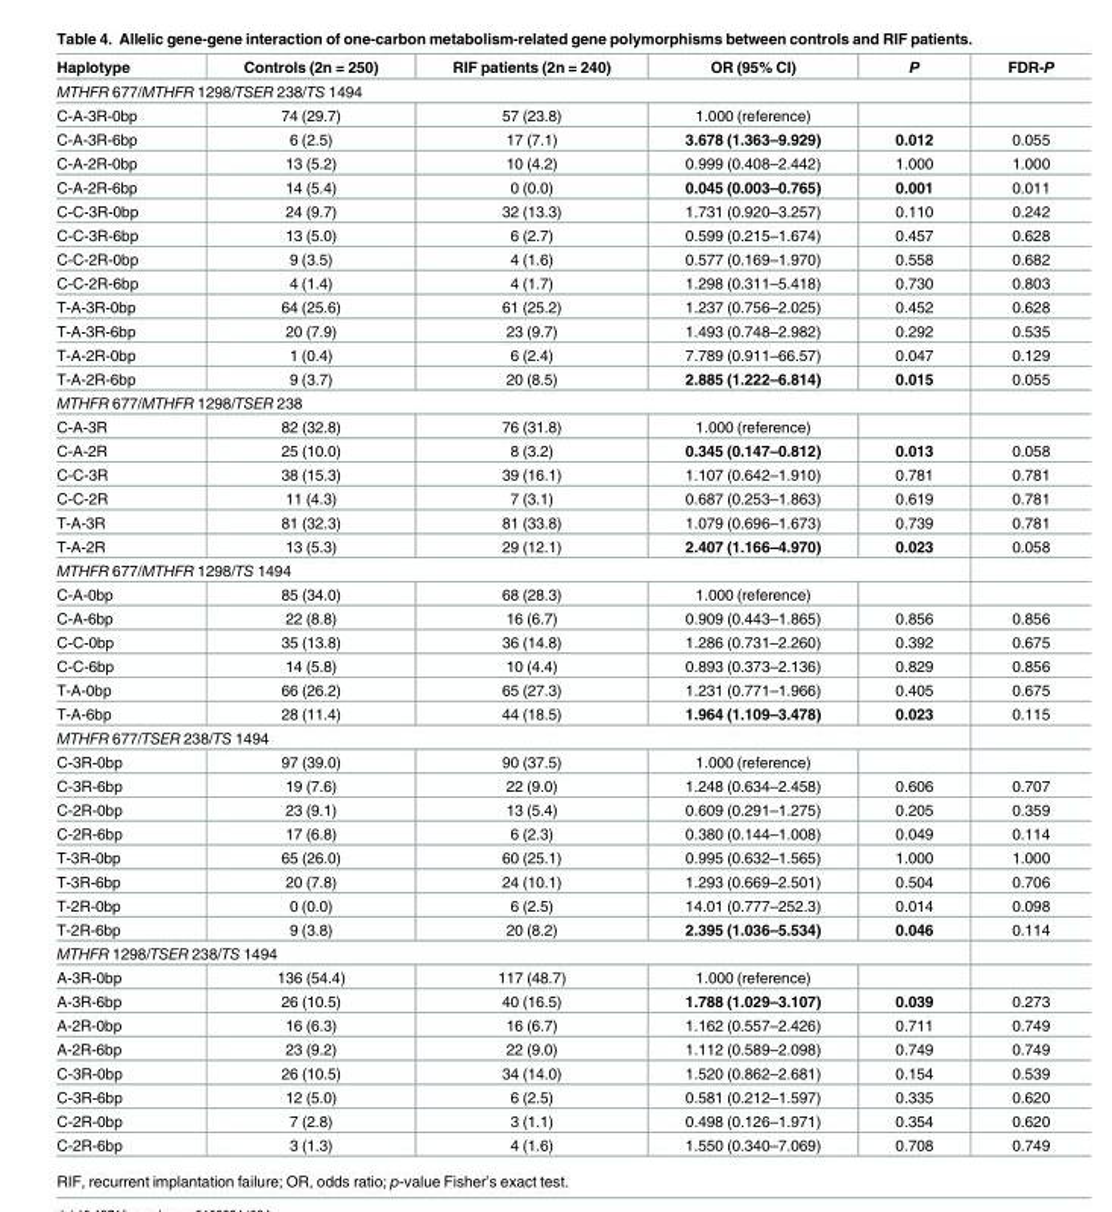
<table><thead><tr><td>Haplotype</td><td>Controls (2n = 250)</td><td>RIF patients (2n = 240)</td><td>OR (95% CI)</td><td>P</td><td>FDR-P</td></tr></thead><tbody><tr><td colspan="6">MTHFR 677/MTHFR 1298/TSER 238/TS 1494</td></tr><tr><td>C-A-3R-0bp</td><td>74 (29.7)</td><td>57 (23.8)</td><td>1.000 (reference)</td><td></td><td></td></tr><tr><td>C-A-3R-6bp</td><td>6 (2.5)</td><td>17 (7.1)</td><td>3.678 (1.363–9.929)</td><td>0.012</td><td>0.055</td></tr><tr><td>C-A-2R-0bp</td><td>13 (5.2)</td><td>10 (4.2)</td><td>0.999 (0.408–2.442)</td><td>1.000</td><td>1.000</td></tr><tr><td>C-A-2R-6bp</td><td>14 (5.4)</td><td>0 (0.0)</td><td>0.045 (0.003–0.765)</td><td>0.001</td><td>0.011</td></tr><tr><td>C-C-3R-0bp</td><td>24 (9.7)</td><td>32 (13.3)</td><td>1.731 (0.920–3.257)</td><td>0.110</td><td>0.242</td></tr><tr><td>C-C-3R-6bp</td><td>13 (5.0)</td><td>6 (2.7)</td><td>0.599 (0.215–1.674)</td><td>0.457</td><td>0.628</td></tr><tr><td>C-C-2R-0bp</td><td>9 (3.5)</td><td>4 (1.6)</td><td>0.577 (0.169–1.970)</td><td>0.558</td><td>0.682</td></tr><tr><td>C-C-2R-6bp</td><td>4 (1.4)</td><td>4 (1.7)</td><td>1.298 (0.311–5.418)</td><td>0.730</td><td>0.803</td></tr><tr><td>T-A-3R-0bp</td><td>64 (25.6)</td><td>61 (25.2)</td><td>1.237 (0.756–2.025)</td><td>0.452</td><td>0.628</td></tr><tr><td>T-A-3R-6bp</td><td>20 (7.9)</td><td>23 (9.7)</td><td>1.493 (0.748–2.982)</td><td>0.292</td><td>0.535</td></tr><tr><td>T-A-2R-0bp</td><td>1 (0.4)</td><td>6 (2.4)</td><td>7.789 (0.911–66.57)</td><td>0.047</td><td>0.129</td></tr><tr><td>T-A-2R-6bp</td><td>9 (3.7)</td><td>20 (8.5)</td><td>2.885 (1.222–6.814)</td><td>0.015</td><td>0.055</td></tr><tr><td colspan="6">MTHFR 677/MTHFR 1298/TSER 238</td></tr><tr><td>C-A-3R</td><td>82 (32.8)</td><td>76 (31.8)</td><td>1.000 (reference)</td><td></td><td></td></tr><tr><td>C-A-2R</td><td>25 (10.0)</td><td>8 (3.2)</td><td>0.345 (0.147–0.812)</td><td>0.013</td><td>0.058</td></tr><tr><td>C-C-3R</td><td>38 (15.3)</td><td>39 (16.1)</td><td>1.107 (0.642–1.910)</td><td>0.781</td><td>0.781</td></tr><tr><td>C-C-2R</td><td>11 (4.3)</td><td>7 (3.1)</td><td>0.687 (0.253–1.863)</td><td>0.619</td><td>0.781</td></tr><tr><td>T-A-3R</td><td>81 (32.3)</td><td>81 (33.8)</td><td>1.079 (0.696–1.673)</td><td>0.739</td><td>0.781</td></tr><tr><td>T-A-2R</td><td>13 (5.3)</td><td>29 (12.1)</td><td>2.407 (1.166–4.970)</td><td>0.023</td><td>0.058</td></tr><tr><td colspan="6">MTHFR 677/MTHFR 1298/TS 1494</td></tr><tr><td>C-A-0bp</td><td>85 (34.0)</td><td>68 (28.3)</td><td>1.000 (reference)</td><td></td><td></td></tr><tr><td>C-A-6bp</td><td>22 (8.8)</td><td>16 (6.7)</td><td>0.909 (0.443–1.865)</td><td>0.856</td><td>0.856</td></tr><tr><td>C-C-0bp</td><td>35 (13.8)</td><td>36 (14.8)</td><td>1.286 (0.731–2.260)</td><td>0.392</td><td>0.675</td></tr><tr><td>C-C-6bp</td><td>14 (5.8)</td><td>10 (4.4)</td><td>0.893 (0.373–2.136)</td><td>0.829</td><td>0.856</td></tr><tr><td>T-A-0bp</td><td>66 (26.2)</td><td>65 (27.3)</td><td>1.231 (0.771–1.966)</td><td>0.405</td><td>0.675</td></tr><tr><td>T-A-6bp</td><td>28 (11.4)</td><td>44 (18.5)</td><td>1.964 (1.109–3.478)</td><td>0.023</td><td>0.115</td></tr><tr><td colspan="6">MTHFR 677/TSER 238/TS 1494</td></tr><tr><td>C-3R-0bp</td><td>97 (39.0)</td><td>90 (37.5)</td><td>1.000 (reference)</td><td></td><td></td></tr><tr><td>C-3R-6bp</td><td>19 (7.6)</td><td>22 (9.0)</td><td>1.248 (0.634–2.458)</td><td>0.606</td><td>0.707</td></tr><tr><td>C-2R-0bp</td><td>23 (9.1)</td><td>13 (5.4)</td><td>0.609 (0.291–1.275)</td><td>0.205</td><td>0.359</td></tr><tr><td>C-2R-6bp</td><td>17 (6.8)</td><td>6 (2.3)</td><td>0.380 (0.144–1.008)</td><td>0.049</td><td>0.114</td></tr><tr><td>T-3R-0bp</td><td>65 (26.0)</td><td>60 (25.1)</td><td>0.995 (0.632–1.565)</td><td>1.000</td><td>1.000</td></tr><tr><td>T-3R-6bp</td><td>20 (7.8)</td><td>24 (10.1)</td><td>1.293 (0.669–2.501)</td><td>0.504</td><td>0.706</td></tr><tr><td>T-2R-0bp</td><td>0 (0.0)</td><td>6 (2.5)</td><td>14.01 (0.777–252.3)</td><td>0.014</td><td>0.098</td></tr><tr><td>T-2R-6bp</td><td>9 (3.8)</td><td>20 (8.2)</td><td>2.395 (1.036–5.534)</td><td>0.046</td><td>0.114</td></tr><tr><td colspan="6">MTHFR 1298/TSER 238/TS 1494</td></tr><tr><td>A-3R-0bp</td><td>136 (54.4)</td><td>117 (48.7)</td><td>1.000 (reference)</td><td></td><td></td></tr><tr><td>A-3R-6bp</td><td>26 (10.5)</td><td>40 (16.5)</td><td>1.788 (1.029–3.107)</td><td>0.039</td><td>0.273</td></tr><tr><td>A-2R-0bp</td><td>16 (6.3)</td><td>16 (6.7)</td><td>1.162 (0.557–2.426)</td><td>0.711</td><td>0.749</td></tr><tr><td>A-2R-6bp</td><td>23 (9.2)</td><td>22 (9.0)</td><td>1.112 (0.589–2.098)</td><td>0.749</td><td>0.749</td></tr><tr><td>C-3R-0bp</td><td>26 (10.5)</td><td>34 (14.0)</td><td>1.520 (0.862–2.681)</td><td>0.154</td><td>0.539</td></tr><tr><td>C-3R-6bp</td><td>12 (5.0)</td><td>6 (2.5)</td><td>0.581 (0.212–1.597)</td><td>0.335</td><td>0.620</td></tr><tr><td>C-2R-0bp</td><td>7 (2.8)</td><td>3 (1.1)</td><td>0.498 (0.126–1.971)</td><td>0.354</td><td>0.620</td></tr><tr><td>C-2R-6bp</td><td>3 (1.3)</td><td>4 (1.6)</td><td>1.550 (0.340–7.069)</td><td>0.708</td><td>0.749</td></tr></tbody></table>